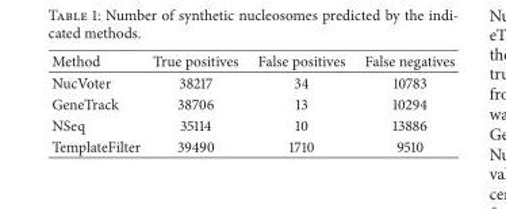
<table><thead><tr><td>Method</td><td>True positives</td><td>False positives</td><td>False negatives</td></tr></thead><tbody><tr><td>NucVoter</td><td>38217</td><td>34</td><td>10783</td></tr><tr><td>GeneTrack</td><td>38706</td><td>13</td><td>10294</td></tr><tr><td>NSeq</td><td>35114</td><td>10</td><td>13886</td></tr><tr><td>TemplateFilter</td><td>39490</td><td>1710</td><td>9510</td></tr></tbody></table>